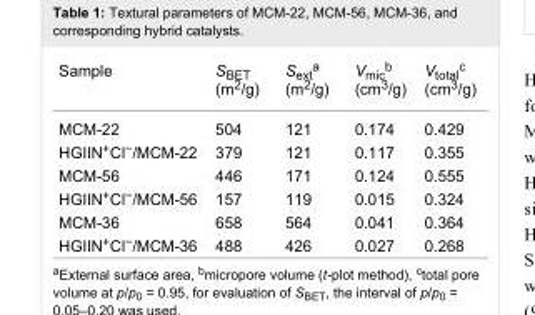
<table><tbody><tr><td>Sample</td><td>S<sub>BET</sub> (m<sup>2</sup>/g)</td><td>S<sub>ext</sub><sup>a</sup> (m<sup>2</sup>/g)</td><td>V<sub>mic</sub><sup>b</sup> (cm<sup>3</sup>/g)</td><td>V<sub>total</sub><sup>c</sup> (cm<sup>3</sup>/g)</td></tr><tr><td>MCM-22</td><td>504</td><td>121</td><td>0.174</td><td>0.429</td></tr><tr><td>HGIIN<sup>+</sup>Cl<sup>−</sup>/MCM-22</td><td>379</td><td>121</td><td>0.117</td><td>0.355</td></tr><tr><td>MCM-56</td><td>446</td><td>171</td><td>0.124</td><td>0.555</td></tr><tr><td>HGIIN<sup>+</sup>Cl<sup>−</sup>/MCM-56</td><td>157</td><td>119</td><td>0.015</td><td>0.324</td></tr><tr><td>MCM-36</td><td>658</td><td>564</td><td>0.041</td><td>0.364</td></tr><tr><td>HGIIN<sup>+</sup>Cl<sup>−</sup>/MCM-36</td><td>488</td><td>426</td><td>0.027</td><td>0.268</td></tr></tbody></table>